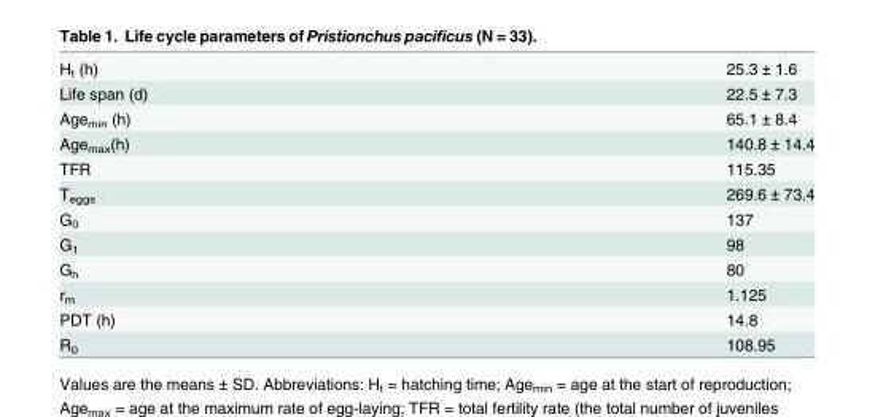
<table><tbody><tr><td>H<sub>t</sub> (h)</td><td>25.3 ± 1.6</td></tr><tr><td>Life span (d)</td><td>22.5 ± 7.3</td></tr><tr><td>Age<sub>min</sub> (h)</td><td>65.1 ± 8.4</td></tr><tr><td>Age<sub>max</sub>(h)</td><td>140.8 ± 14.4</td></tr><tr><td>TFR</td><td>115.35</td></tr><tr><td>T<sub>eggs</sub></td><td>269.6 ± 73.4</td></tr><tr><td>G<sub>0</sub></td><td>137</td></tr><tr><td>G<sub>1</sub></td><td>98</td></tr><tr><td>G<sub>h</sub></td><td>80</td></tr><tr><td>r<sub>m</sub></td><td>1.125</td></tr><tr><td>PDT (h)</td><td>14.8</td></tr><tr><td>R<sub>0</sub></td><td>108.95</td></tr></tbody></table>